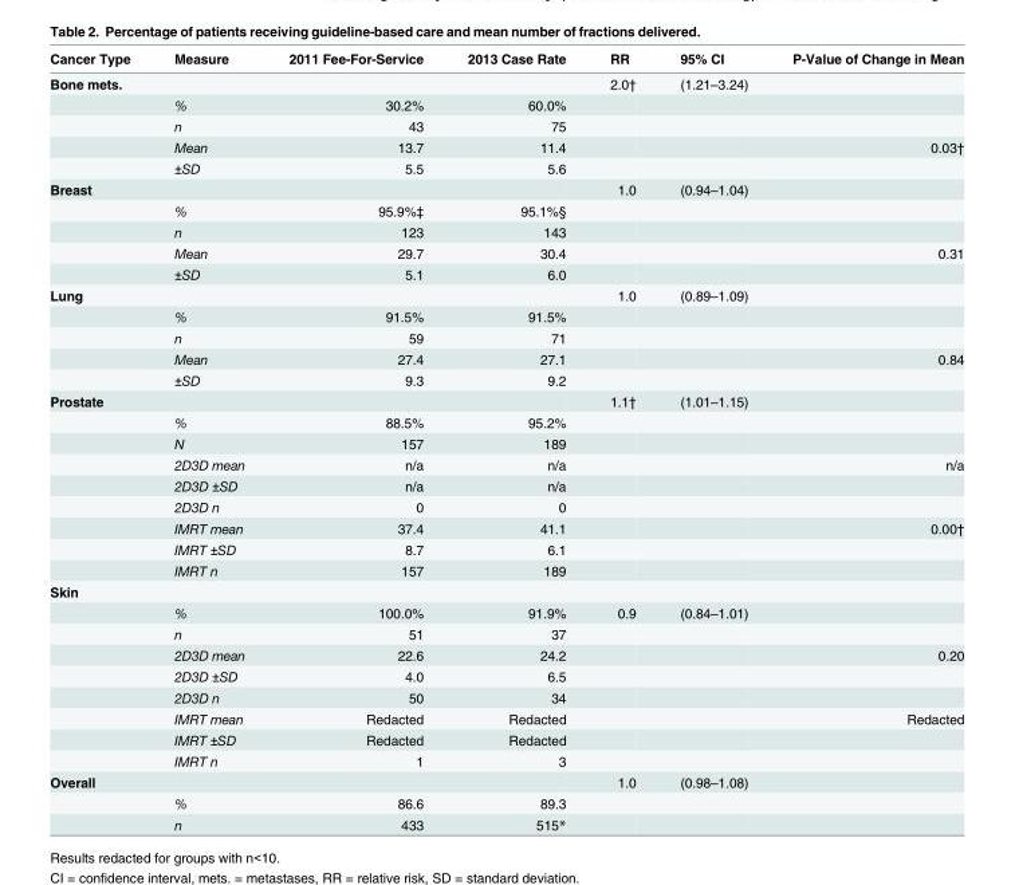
<table><thead><tr><td>Cancer Type</td><td>Measure</td><td>2011 Fee-For-Service</td><td>2013 Case Rate</td><td>RR</td><td>95% CI</td><td>P-Value of Change in Mean</td></tr></thead><tbody><tr><td rowspan="5">Bone mets.</td><td></td><td></td><td></td><td>2.0†</td><td>(1.21–3.24)</td><td></td></tr><tr><td>%</td><td>30.2%</td><td>60.0%</td><td></td><td></td><td></td></tr><tr><td>n</td><td>43</td><td>75</td><td></td><td></td><td></td></tr><tr><td>Mean</td><td>13.7</td><td>11.4</td><td></td><td></td><td>0.03†</td></tr><tr><td>±SD</td><td>5.5</td><td>5.6</td><td></td><td></td><td></td></tr><tr><td rowspan="5">Breast</td><td></td><td></td><td></td><td>1.0</td><td>(0.94–1.04)</td><td></td></tr><tr><td>%</td><td>95.9%‡</td><td>95.1%§</td><td></td><td></td><td></td></tr><tr><td>n</td><td>123</td><td>143</td><td></td><td></td><td></td></tr><tr><td>Mean</td><td>29.7</td><td>30.4</td><td></td><td></td><td>0.31</td></tr><tr><td>±SD</td><td>5.1</td><td>6.0</td><td></td><td></td><td></td></tr><tr><td rowspan="5">Lung</td><td></td><td></td><td></td><td>1.0</td><td>(0.89–1.09)</td><td></td></tr><tr><td>%</td><td>91.5%</td><td>91.5%</td><td></td><td></td><td></td></tr><tr><td>n</td><td>59</td><td>71</td><td></td><td></td><td></td></tr><tr><td>Mean</td><td>27.4</td><td>27.1</td><td></td><td></td><td>0.84</td></tr><tr><td>±SD</td><td>9.3</td><td>9.2</td><td></td><td></td><td></td></tr><tr><td rowspan="9">Prostate</td><td></td><td></td><td></td><td>1.1†</td><td>(1.01–1.15)</td><td></td></tr><tr><td>%</td><td>88.5%</td><td>95.2%</td><td></td><td></td><td></td></tr><tr><td>N</td><td>157</td><td>189</td><td></td><td></td><td></td></tr><tr><td>2D3D mean</td><td>n/a</td><td>n/a</td><td></td><td></td><td>n/a</td></tr><tr><td>2D3D ±SD</td><td>n/a</td><td>n/a</td><td></td><td></td><td></td></tr><tr><td>2D3D n</td><td>0</td><td>0</td><td></td><td></td><td></td></tr><tr><td>IMRT mean</td><td>37.4</td><td>41.1</td><td></td><td></td><td>0.00†</td></tr><tr><td>IMRT ±SD</td><td>8.7</td><td>6.1</td><td></td><td></td><td></td></tr><tr><td>IMRT n</td><td>157</td><td>189</td><td></td><td></td><td></td></tr><tr><td colspan="7">Skin</td></tr><tr><td></td><td>%</td><td>100.0%</td><td>91.9%</td><td>0.9</td><td>(0.84–1.01)</td><td></td></tr><tr><td></td><td>n</td><td>51</td><td>37</td><td></td><td></td><td></td></tr><tr><td></td><td>2D3D mean</td><td>22.6</td><td>24.2</td><td></td><td></td><td>0.20</td></tr><tr><td></td><td>2D3D ±SD</td><td>4.0</td><td>6.5</td><td></td><td></td><td></td></tr><tr><td></td><td>2D3D n</td><td>50</td><td>34</td><td></td><td></td><td></td></tr><tr><td></td><td>IMRT mean</td><td>Redacted</td><td>Redacted</td><td></td><td></td><td>Redacted</td></tr><tr><td></td><td>IMRT ±SD</td><td>Redacted</td><td>Redacted</td><td></td><td></td><td></td></tr><tr><td></td><td>IMRT n</td><td>1</td><td>3</td><td></td><td></td><td></td></tr><tr><td rowspan="3">Overall</td><td></td><td></td><td></td><td>1.0</td><td>(0.98–1.08)</td><td></td></tr><tr><td>%</td><td>86.6</td><td>89.3</td><td></td><td></td><td></td></tr><tr><td>n</td><td>433</td><td>515*</td><td></td><td></td><td></td></tr></tbody></table>